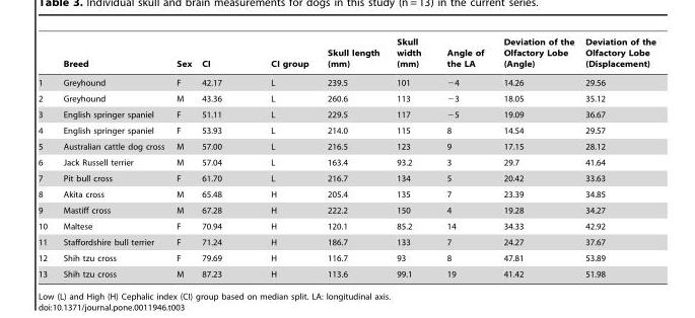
<table><thead><tr><td></td><td>Breed</td><td>Sex</td><td>CI</td><td>CI group</td><td>Skull length (mm)</td><td>Skull width (mm)</td><td>Angle of the LA</td><td>Deviation of the Olfactory Lobe (Angle)</td><td>Deviation of the Olfactory Lobe (Displacement)</td></tr></thead><tbody><tr><td>1</td><td>Greyhound</td><td>F</td><td>42.17</td><td>L</td><td>239.5</td><td>101</td><td>−4</td><td>14.26</td><td>29.56</td></tr><tr><td>2</td><td>Greyhound</td><td>M</td><td>43.36</td><td>L</td><td>260.6</td><td>113</td><td>−3</td><td>18.05</td><td>35.12</td></tr><tr><td>3</td><td>English springer spaniel</td><td>F</td><td>51.11</td><td>L</td><td>229.5</td><td>117</td><td>−5</td><td>19.09</td><td>36.67</td></tr><tr><td>4</td><td>English springer spaniel</td><td>F</td><td>53.93</td><td>L</td><td>214.0</td><td>115</td><td>8</td><td>14.54</td><td>29.57</td></tr><tr><td>5</td><td>Australian cattle dog cross</td><td>M</td><td>57.00</td><td>L</td><td>216.5</td><td>123</td><td>9</td><td>17.15</td><td>28.12</td></tr><tr><td>6</td><td>Jack Russell terrier</td><td>M</td><td>57.04</td><td>L</td><td>163.4</td><td>93.2</td><td>3</td><td>29.7</td><td>41.64</td></tr><tr><td>7</td><td>Pit bull cross</td><td>F</td><td>61.70</td><td>L</td><td>216.7</td><td>134</td><td>5</td><td>20.42</td><td>33.63</td></tr><tr><td>8</td><td>Akita cross</td><td>M</td><td>65.48</td><td>H</td><td>205.4</td><td>135</td><td>7</td><td>23.39</td><td>34.85</td></tr><tr><td>9</td><td>Mastiff cross</td><td>M</td><td>67.28</td><td>H</td><td>222.2</td><td>150</td><td>4</td><td>19.28</td><td>34.27</td></tr><tr><td>10</td><td>Maltese</td><td>F</td><td>70.94</td><td>H</td><td>120.1</td><td>85.2</td><td>14</td><td>34.33</td><td>42.92</td></tr><tr><td>11</td><td>Staffordshire bull terrier</td><td>F</td><td>71.24</td><td>H</td><td>186.7</td><td>133</td><td>7</td><td>24.27</td><td>37.67</td></tr><tr><td>12</td><td>Shih tzu cross</td><td>F</td><td>79.69</td><td>H</td><td>116.7</td><td>93</td><td>8</td><td>47.81</td><td>53.89</td></tr><tr><td>13</td><td>Shih tzu cross</td><td>M</td><td>87.23</td><td>H</td><td>113.6</td><td>99.1</td><td>19</td><td>41.42</td><td>51.98</td></tr></tbody></table>